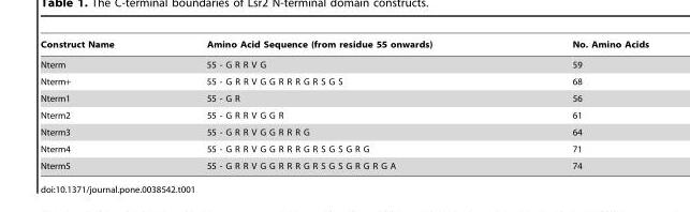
<table><thead><tr><td>Construct Name</td><td>Amino Acid Sequence (from residue 55 onwards)</td><td>No. Amino Acids</td></tr></thead><tbody><tr><td>Nterm</td><td>55 - G R R V G</td><td>59</td></tr><tr><td>Nterm+</td><td>55 - G R R V G G R R R G R S G S</td><td>68</td></tr><tr><td>Nterm1</td><td>55 - G R</td><td>56</td></tr><tr><td>Nterm2</td><td>55 - G R R V G G R</td><td>61</td></tr><tr><td>Nterm3</td><td>55 - G R R V G G R R R G</td><td>64</td></tr><tr><td>Nterm4</td><td>55 - G R R V G G R R R G R S G S G R G</td><td>71</td></tr><tr><td>Nterm5</td><td>55 - G R R V G G R R R G R S G S G R G R G A</td><td>74</td></tr></tbody></table>